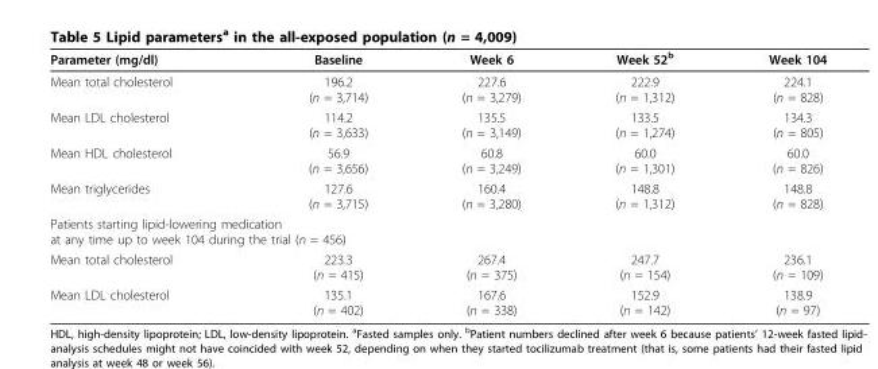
<table><thead><tr><td>Parameter (mg/dl)</td><td>Baseline</td><td>Week 6</td><td>Week 52<sup>b</sup></td><td>Week 104</td></tr></thead><tbody><tr><td>Mean total cholesterol</td><td>196.2 (n = 3,714)</td><td>227.6 (n = 3,279)</td><td>222.9 (n = 1,312)</td><td>224.1 (n = 828)</td></tr><tr><td>Mean LDL cholesterol</td><td>114.2 (n = 3,633)</td><td>135.5 (n = 3,149)</td><td>133.5 (n = 1,274)</td><td>134.3 (n = 805)</td></tr><tr><td>Mean HDL cholesterol</td><td>56.9 (n = 3,656)</td><td>60.8 (n = 3,249)</td><td>60.0 (n = 1,301)</td><td>60.0 (n = 826)</td></tr><tr><td>Mean triglycerides</td><td>127.6 (n = 3,715)</td><td>160.4 (n = 3,280)</td><td>148.8 (n = 1,312)</td><td>148.8 (n = 828)</td></tr><tr><td colspan="5">Patients starting lipid-lowering medication at any time up to week 104 during the trial (n = 456)</td></tr><tr><td>Mean total cholesterol</td><td>223.3 (n = 415)</td><td>267.4 (n = 375)</td><td>247.7 (n = 154)</td><td>236.1 (n = 109)</td></tr><tr><td>Mean LDL cholesterol</td><td>135.1 (n = 402)</td><td>167.6 (n = 338)</td><td>152.9 (n = 142)</td><td>138.9 (n = 97)</td></tr></tbody></table>